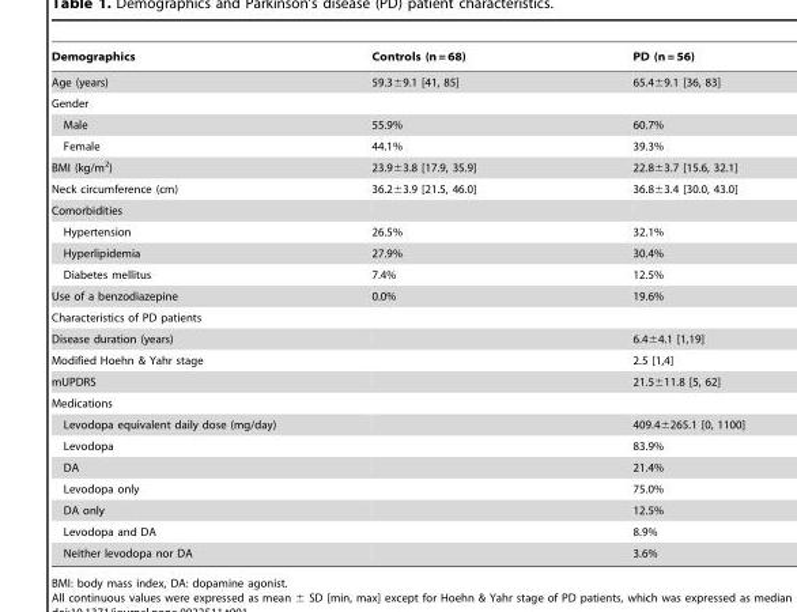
<table><thead><tr><td>Demographics</td><td>Controls (n = 68)</td><td>PD (n = 56)</td></tr></thead><tbody><tr><td>Age (years)</td><td>59.3±9.1 [41, 85]</td><td>65.4±9.1 [36, 83]</td></tr><tr><td colspan="3">Gender</td></tr><tr><td>Male</td><td>55.9%</td><td>60.7%</td></tr><tr><td>Female</td><td>44.1%</td><td>39.3%</td></tr><tr><td>BMI (kg/m<sup>2</sup>)</td><td>23.9±3.8 [17.9, 35.9]</td><td>22.8±3.7 [15.6, 32.1]</td></tr><tr><td>Neck circumference (cm)</td><td>36.2±3.9 [21.5, 46.0]</td><td>36.8±3.4 [30.0, 43.0]</td></tr><tr><td colspan="3">Comorbidities</td></tr><tr><td>Hypertension</td><td>26.5%</td><td>32.1%</td></tr><tr><td>Hyperlipidemia</td><td>27.9%</td><td>30.4%</td></tr><tr><td>Diabetes mellitus</td><td>7.4%</td><td>12.5%</td></tr><tr><td>Use of a benzodiazepine</td><td>0.0%</td><td>19.6%</td></tr><tr><td colspan="3">Characteristics of PD patients</td></tr><tr><td>Disease duration (years)</td><td></td><td>6.464.1 [1,19]</td></tr><tr><td>Modified Hoehn &amp; Yahr stage</td><td></td><td>2.5 [1,4]</td></tr><tr><td>mUPDRS</td><td></td><td>21.5±11.8 [5, 62]</td></tr><tr><td colspan="3">Medications</td></tr><tr><td>Levodopa equivalent daily dose (mg/day)</td><td></td><td>409.4±265.1 [0, 1100]</td></tr><tr><td>Levodopa</td><td></td><td>83.9%</td></tr><tr><td>DA</td><td></td><td>21.4%</td></tr><tr><td>Levodopa only</td><td></td><td>75.0%</td></tr><tr><td>DA only</td><td></td><td>12.5%</td></tr><tr><td>Levodopa and DA</td><td></td><td>8.9%</td></tr><tr><td>Neither levodopa nor DA</td><td></td><td>3.6%</td></tr></tbody></table>